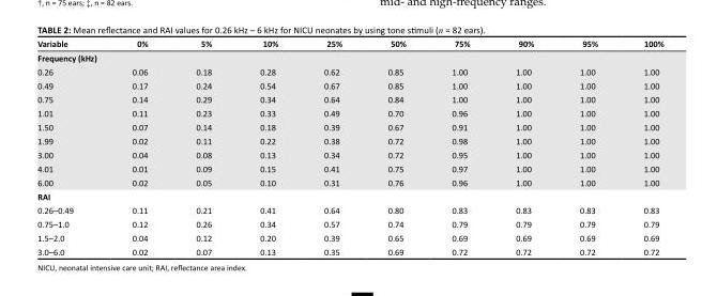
<table><thead><tr><td>Variable</td><td>0%</td><td>5%</td><td>10%</td><td>25%</td><td>50%</td><td>75%</td><td>90%</td><td>95%</td><td>100%</td></tr></thead><tbody><tr><td colspan="10">Frequency (kHz)</td></tr><tr><td>0.26</td><td>0.06</td><td>0.18</td><td>0.28</td><td>0.62</td><td>0.85</td><td>1.00</td><td>1.00</td><td>1.00</td><td>1.00</td></tr><tr><td>0.49</td><td>0.17</td><td>0.24</td><td>0.54</td><td>0.67</td><td>0.85</td><td>1.00</td><td>1.00</td><td>1.00</td><td>1.00</td></tr><tr><td>0.75</td><td>0.14</td><td>0.29</td><td>0.34</td><td>0.64</td><td>0.84</td><td>1.00</td><td>1.00</td><td>1.00</td><td>1.00</td></tr><tr><td>1.01</td><td>0.11</td><td>0.23</td><td>0.33</td><td>0.49</td><td>0.70</td><td>0.96</td><td>1.00</td><td>1.00</td><td>1.00</td></tr><tr><td>1.50</td><td>0.07</td><td>0.14</td><td>0.18</td><td>0.39</td><td>0.67</td><td>0.91</td><td>1.00</td><td>1.00</td><td>1.00</td></tr><tr><td>1.99</td><td>0.02</td><td>0.11</td><td>0.22</td><td>0.38</td><td>0.72</td><td>0.98</td><td>1.00</td><td>1.00</td><td>1.00</td></tr><tr><td>3.00</td><td>0.04</td><td>0.08</td><td>0.13</td><td>0.34</td><td>0.72</td><td>0.95</td><td>1.00</td><td>1.00</td><td>1.00</td></tr><tr><td>4.01</td><td>0.01</td><td>0.09</td><td>0.15</td><td>0.41</td><td>0.75</td><td>0.97</td><td>1.00</td><td>1.00</td><td>1.00</td></tr><tr><td>6.00</td><td>0.02</td><td>0.05</td><td>0.10</td><td>0.31</td><td>0.76</td><td>0.96</td><td>1.00</td><td>1.00</td><td>1.00</td></tr><tr><td colspan="10">RAI</td></tr><tr><td>0.26–0.49</td><td>0.11</td><td>0.21</td><td>0.41</td><td>0.64</td><td>0.80</td><td>0.83</td><td>0.83</td><td>0.83</td><td>0.83</td></tr><tr><td>0.75–1.0</td><td>0.12</td><td>0.26</td><td>0.34</td><td>0.57</td><td>0.74</td><td>0.79</td><td>0.79</td><td>0.79</td><td>0.79</td></tr><tr><td>1.5–2.0</td><td>0.04</td><td>0.12</td><td>0.20</td><td>0.39</td><td>0.65</td><td>0.69</td><td>0.69</td><td>0.69</td><td>0.69</td></tr><tr><td>3.0–6.0</td><td>0.02</td><td>0.07</td><td>0.13</td><td>0.35</td><td>0.69</td><td>0.72</td><td>0.72</td><td>0.72</td><td>0.72</td></tr></tbody></table>